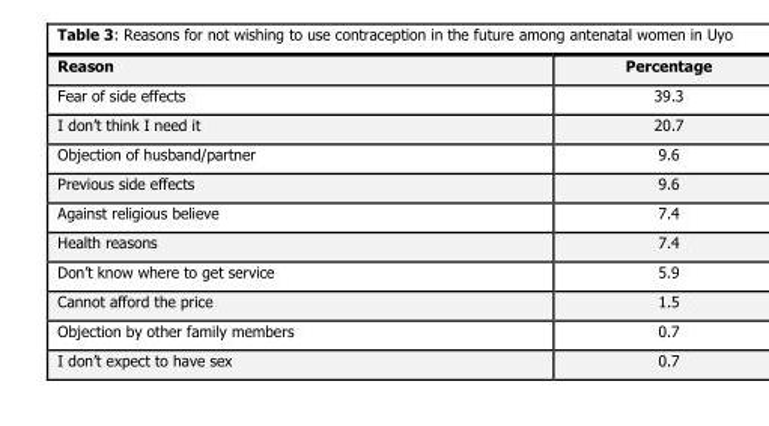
<table><thead><tr><td>Reason</td><td>Percentage</td></tr></thead><tbody><tr><td>Fear of side effects</td><td>39.3</td></tr><tr><td>I don’t think I need it</td><td>20.7</td></tr><tr><td>Objection of husband/partner</td><td>9.6</td></tr><tr><td>Previous side effects</td><td>9.6</td></tr><tr><td>Against religious believe</td><td>7.4</td></tr><tr><td>Health reasons</td><td>7.4</td></tr><tr><td>Don’t know where to get service</td><td>5.9</td></tr><tr><td>Cannot afford the price</td><td>1.5</td></tr><tr><td>Objection by other family members</td><td>0.7</td></tr><tr><td>I don’t expect to have sex</td><td>0.7</td></tr></tbody></table>